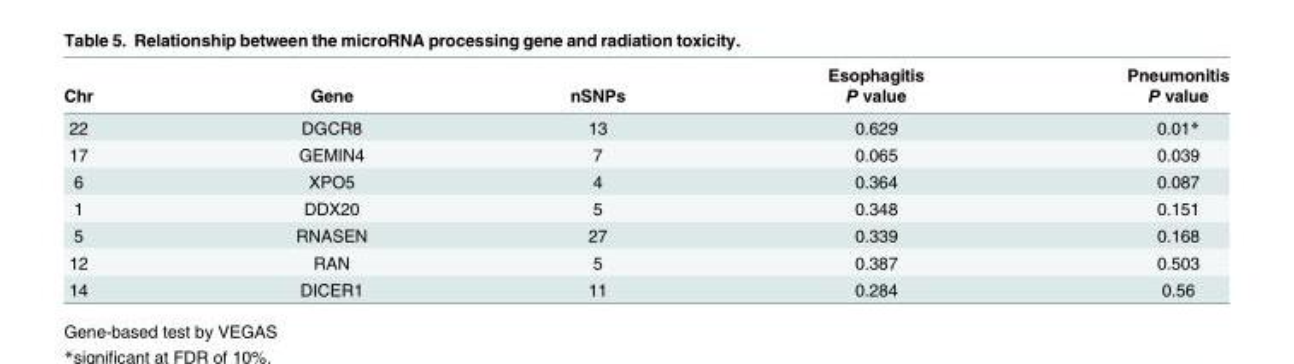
<table><thead><tr><td rowspan="2">Chr</td><td rowspan="2">Gene</td><td rowspan="2">nSNPs</td><td rowspan="2">Esophagitis P value</td><td rowspan="2">Pneumonitis P value</td></tr><tr></tr></thead><tbody><tr><td>22</td><td>DGCR8</td><td>13</td><td>0.629</td><td>0.01*</td></tr><tr><td>17</td><td>GEMIN4</td><td>7</td><td>0.065</td><td>0.039</td></tr><tr><td>6</td><td>XPO5</td><td>4</td><td>0.364</td><td>0.087</td></tr><tr><td>1</td><td>DDX20</td><td>5</td><td>0.348</td><td>0.151</td></tr><tr><td>5</td><td>RNASEN</td><td>27</td><td>0.339</td><td>0.168</td></tr><tr><td>12</td><td>RAN</td><td>5</td><td>0.387</td><td>0.503</td></tr><tr><td>14</td><td>DICER1</td><td>11</td><td>0.284</td><td>0.56</td></tr></tbody></table>